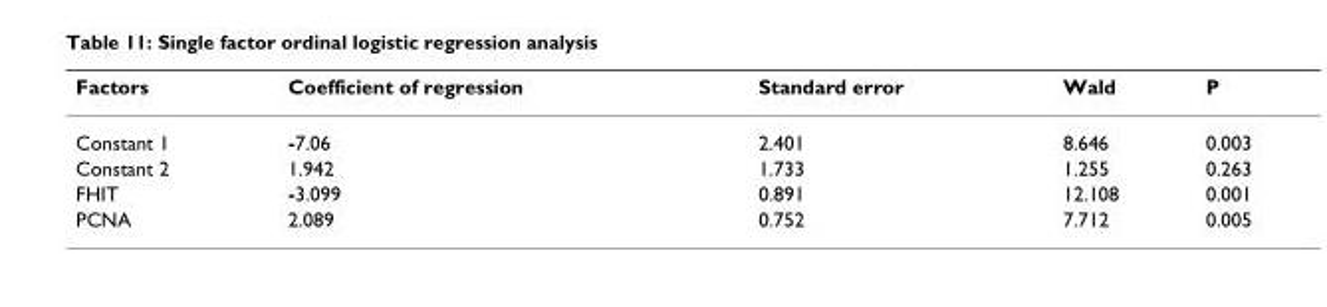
<table><thead><tr><td>Factors</td><td>Coefficient of regression</td><td>Standard error</td><td>Wald</td><td>P</td></tr></thead><tbody><tr><td>Constant 1</td><td>-7.06</td><td>2.401</td><td>8.646</td><td>0.003</td></tr><tr><td>Constant 2</td><td>1.942</td><td>1.733</td><td>1.255</td><td>0.263</td></tr><tr><td>FHIT</td><td>-3.099</td><td>0.891</td><td>12.108</td><td>0.001</td></tr><tr><td>PCNA</td><td>2.089</td><td>0.752</td><td>7.712</td><td>0.005</td></tr></tbody></table>